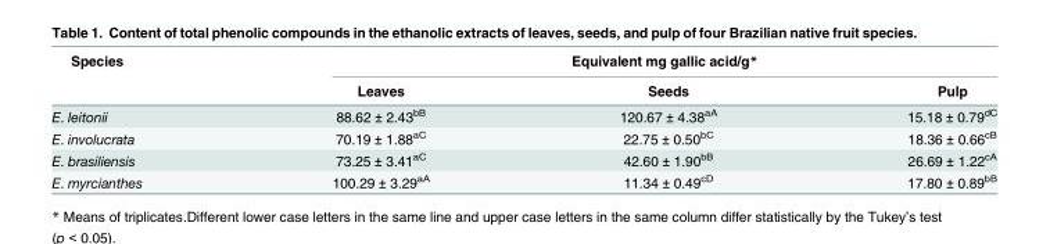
<table><thead><tr><td rowspan="2">Species</td><td colspan="3">Equivalent mg gallic acid/g*</td></tr><tr><td>Leaves</td><td>Seeds</td><td>Pulp</td></tr></thead><tbody><tr><td>E. leitonii</td><td>88.62 ± 2.43<sup>bB</sup></td><td>120.67 ± 4.38<sup>aA</sup></td><td>15.18 ± 0.79<sup>dC</sup></td></tr><tr><td>E. involucrata</td><td>70.19 ± 1.88<sup>aC</sup></td><td>22.75 ± 0.50<sup>bC</sup></td><td>18.36 ± 0.66<sup>cB</sup></td></tr><tr><td>E. brasiliensis</td><td>73.25 ± 3.41<sup>aC</sup></td><td>42.60 ± 1.90<sup>bB</sup></td><td>26.69 ± 1.22<sup>cA</sup></td></tr><tr><td>E. myrcianthes</td><td>100.29 ± 3.29<sup>aA</sup></td><td>11.34 ± 0.49<sup>cD</sup></td><td>17.80 ± 0.89<sup>bB</sup></td></tr></tbody></table>